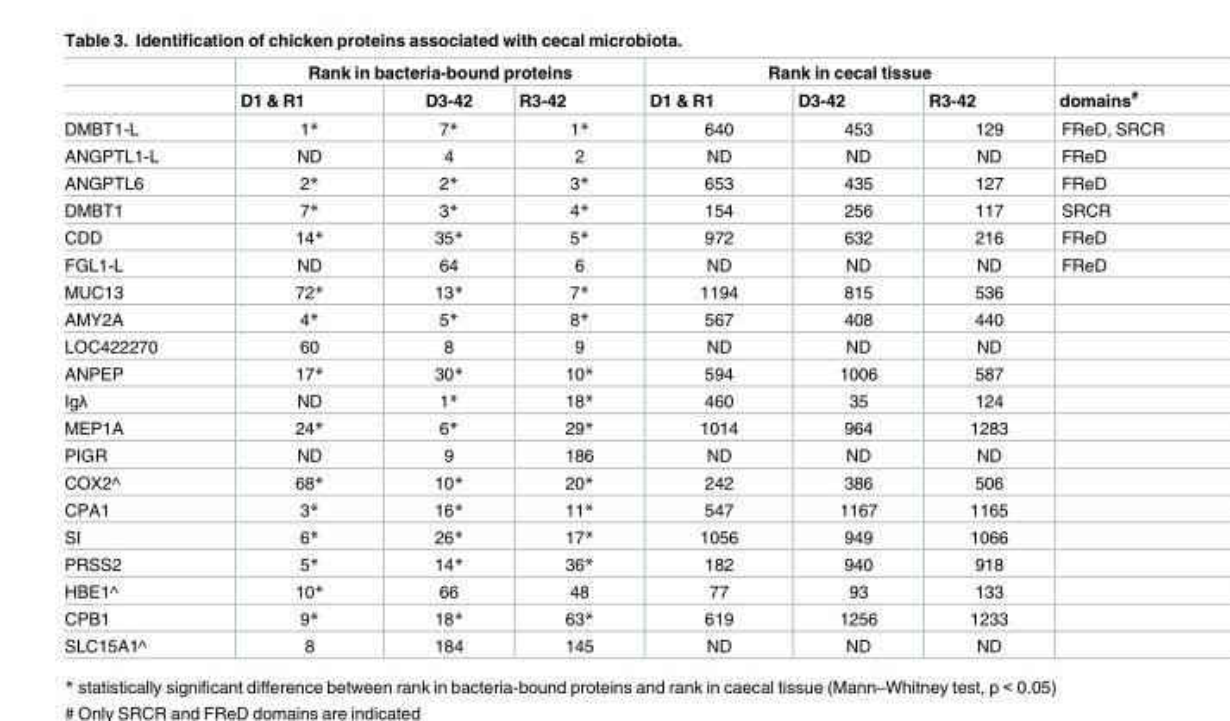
<table><thead><tr><td rowspan="2"></td><td colspan="3">Rank in bacteria-bound proteins</td><td colspan="3">Rank in cecal tissue</td><td rowspan="2">domains<sup>#</sup></td></tr><tr><td>D1 &amp; R1</td><td>D3-42</td><td>R3-42</td><td>D1 &amp; R1</td><td>D3-42</td><td>R3-42</td></tr></thead><tbody><tr><td>DMBT1-L</td><td>1*</td><td>7*</td><td>1*</td><td>640</td><td>453</td><td>129</td><td>FReD, SRCR</td></tr><tr><td>ANGPTL1-L</td><td>ND</td><td>4</td><td>2</td><td>ND</td><td>ND</td><td>ND</td><td>FReD</td></tr><tr><td>ANGPTL6</td><td>2*</td><td>2*</td><td>3*</td><td>653</td><td>435</td><td>127</td><td>FReD</td></tr><tr><td>DMBT1</td><td>7*</td><td>3*</td><td>4*</td><td>154</td><td>256</td><td>117</td><td>SRCR</td></tr><tr><td>CDD</td><td>14*</td><td>35*</td><td>5*</td><td>972</td><td>632</td><td>216</td><td>FReD</td></tr><tr><td>FGL1-L</td><td>ND</td><td>64</td><td>6</td><td>ND</td><td>ND</td><td>ND</td><td>FReD</td></tr><tr><td>MUC13</td><td>72*</td><td>13*</td><td>7*</td><td>1194</td><td>815</td><td>536</td><td></td></tr><tr><td>AMY2A</td><td>4*</td><td>5*</td><td>8*</td><td>567</td><td>408</td><td>440</td><td></td></tr><tr><td>LOC422270</td><td>60</td><td>8</td><td>9</td><td>ND</td><td>ND</td><td>ND</td><td></td></tr><tr><td>ANPEP</td><td>17*</td><td>30*</td><td>10*</td><td>594</td><td>1006</td><td>587</td><td></td></tr><tr><td>Igλ</td><td>ND</td><td>1*</td><td>18*</td><td>460</td><td>35</td><td>124</td><td></td></tr><tr><td>MEP1A</td><td>24*</td><td>6*</td><td>29*</td><td>1014</td><td>964</td><td>1283</td><td></td></tr><tr><td>PIGR</td><td>ND</td><td>9</td><td>186</td><td>ND</td><td>ND</td><td>ND</td><td></td></tr><tr><td>COX2^</td><td>68*</td><td>10*</td><td>20*</td><td>242</td><td>386</td><td>506</td><td></td></tr><tr><td>CPA1</td><td>3*</td><td>16*</td><td>11*</td><td>547</td><td>1167</td><td>1165</td><td></td></tr><tr><td>SI</td><td>6*</td><td>26*</td><td>17*</td><td>1056</td><td>949</td><td>1066</td><td></td></tr><tr><td>PRSS2</td><td>5*</td><td>14*</td><td>36*</td><td>182</td><td>940</td><td>918</td><td></td></tr><tr><td>HBE1^</td><td>10*</td><td>66</td><td>48</td><td>77</td><td>93</td><td>133</td><td></td></tr><tr><td>CPB1</td><td>9*</td><td>18*</td><td>63*</td><td>619</td><td>1256</td><td>1233</td><td></td></tr><tr><td>SLC15A1^</td><td>8</td><td>184</td><td>145</td><td>ND</td><td>ND</td><td>ND</td><td></td></tr></tbody></table>